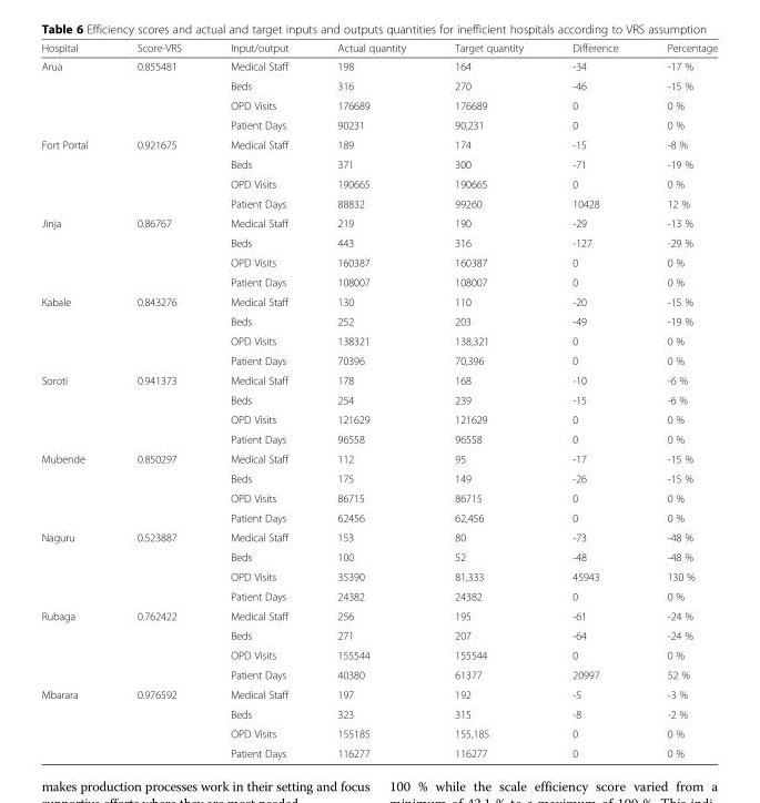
<table><thead><tr><td>Hospital</td><td>Score-VRS</td><td>Input/output</td><td>Actual quantity</td><td>Target quantity</td><td>Difference</td><td>Percentage</td></tr></thead><tbody><tr><td rowspan="4">Arua</td><td>0.855481</td><td>Medical Staff</td><td>198</td><td>164</td><td>-34</td><td>-17 %</td></tr><tr><td></td><td>Beds</td><td>316</td><td>270</td><td>-46</td><td>-15 %</td></tr><tr><td></td><td>OPD Visits</td><td>176689</td><td>176689</td><td>0</td><td>0 %</td></tr><tr><td></td><td>Patient Days</td><td>90231</td><td>90,231</td><td>0</td><td>0 %</td></tr><tr><td rowspan="4">Fort Portal</td><td>0.921675</td><td>Medical Staff</td><td>189</td><td>174</td><td>-15</td><td>-8 %</td></tr><tr><td></td><td>Beds</td><td>371</td><td>300</td><td>-71</td><td>-19 %</td></tr><tr><td></td><td>OPD Visits</td><td>190665</td><td>190665</td><td>0</td><td>0 %</td></tr><tr><td></td><td>Patient Days</td><td>88832</td><td>99260</td><td>10428</td><td>12 %</td></tr><tr><td rowspan="4">Jinja</td><td>0.86767</td><td>Medical Staff</td><td>219</td><td>190</td><td>-29</td><td>-13 %</td></tr><tr><td></td><td>Beds</td><td>443</td><td>316</td><td>-127</td><td>-29 %</td></tr><tr><td></td><td>OPD Visits</td><td>160387</td><td>160387</td><td>0</td><td>0 %</td></tr><tr><td></td><td>Patient Days</td><td>108007</td><td>108007</td><td>0</td><td>0 %</td></tr><tr><td rowspan="4">Kabale</td><td>0.843276</td><td>Medical Staff</td><td>130</td><td>110</td><td>-20</td><td>-15 %</td></tr><tr><td></td><td>Beds</td><td>252</td><td>203</td><td>-49</td><td>-19 %</td></tr><tr><td></td><td>OPD Visits</td><td>138321</td><td>138,321</td><td>0</td><td>0 %</td></tr><tr><td></td><td>Patient Days</td><td>70396</td><td>70,396</td><td>0</td><td>0 %</td></tr><tr><td rowspan="4">Soroti</td><td>0.941373</td><td>Medical Staff</td><td>178</td><td>168</td><td>-10</td><td>-6 %</td></tr><tr><td></td><td>Beds</td><td>254</td><td>239</td><td>-15</td><td>-6 %</td></tr><tr><td></td><td>OPD Visits</td><td>121629</td><td>121629</td><td>0</td><td>0 %</td></tr><tr><td></td><td>Patient Days</td><td>96558</td><td>96558</td><td>0</td><td>0 %</td></tr><tr><td rowspan="4">Mubende</td><td>0.850297</td><td>Medical Staff</td><td>112</td><td>95</td><td>-17</td><td>-15 %</td></tr><tr><td></td><td>Beds</td><td>175</td><td>149</td><td>-26</td><td>-15 %</td></tr><tr><td></td><td>OPD Visits</td><td>86715</td><td>86715</td><td>0</td><td>0 %</td></tr><tr><td></td><td>Patient Days</td><td>62456</td><td>62,456</td><td>0</td><td>0 %</td></tr><tr><td rowspan="4">Naguru</td><td>0.523887</td><td>Medical Staff</td><td>153</td><td>80</td><td>-73</td><td>-48 %</td></tr><tr><td></td><td>Beds</td><td>100</td><td>52</td><td>-48</td><td>-48 %</td></tr><tr><td></td><td>OPD Visits</td><td>35390</td><td>81,333</td><td>45943</td><td>130 %</td></tr><tr><td></td><td>Patient Days</td><td>24382</td><td>24382</td><td>0</td><td>0 %</td></tr><tr><td rowspan="4">Rubaga</td><td>0.762422</td><td>Medical Staff</td><td>256</td><td>195</td><td>-61</td><td>-24 %</td></tr><tr><td></td><td>Beds</td><td>271</td><td>207</td><td>-64</td><td>-24 %</td></tr><tr><td></td><td>OPD Visits</td><td>155544</td><td>155544</td><td>0</td><td>0 %</td></tr><tr><td></td><td>Patient Days</td><td>40380</td><td>61377</td><td>20997</td><td>52 %</td></tr><tr><td rowspan="4">Mbarara</td><td>0.976592</td><td>Medical Staff</td><td>197</td><td>192</td><td>-5</td><td>-3 %</td></tr><tr><td></td><td>Beds</td><td>323</td><td>315</td><td>-8</td><td>-2 %</td></tr><tr><td></td><td>OPD Visits</td><td>155185</td><td>155,185</td><td>0</td><td>0 %</td></tr><tr><td></td><td>Patient Days</td><td>116277</td><td>116277</td><td>0</td><td>0 %</td></tr></tbody></table>